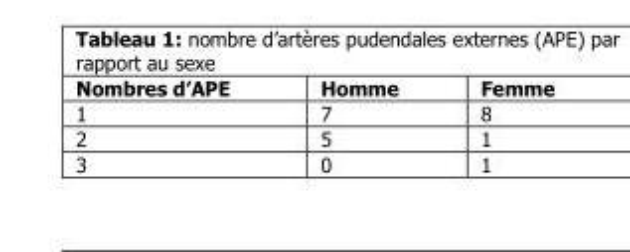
<table><thead><tr><td>Nombres d’APE</td><td>Homme</td><td>Femme</td></tr></thead><tbody><tr><td>1</td><td>7</td><td>8</td></tr><tr><td>2</td><td>5</td><td>1</td></tr><tr><td>3</td><td>0</td><td>1</td></tr></tbody></table>